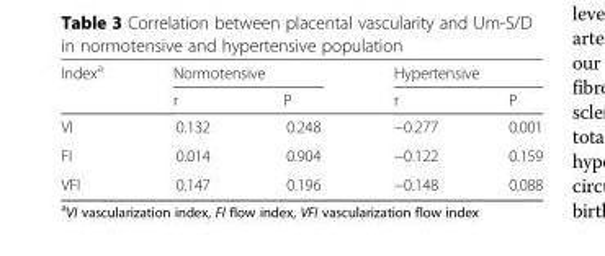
<table><thead><tr><td rowspan="2">Index<sup>a</sup></td><td colspan="2">Normotensive</td><td colspan="2">Hypertensive</td></tr><tr><td>r</td><td>P</td><td>r</td><td>P</td></tr></thead><tbody><tr><td>VI</td><td>0.132</td><td>0.248</td><td>−0.277</td><td>0.001</td></tr><tr><td>FI</td><td>0.014</td><td>0.904</td><td>−0.122</td><td>0.159</td></tr><tr><td>VFI</td><td>0.147</td><td>0.196</td><td>−0.148</td><td>0.088</td></tr></tbody></table>